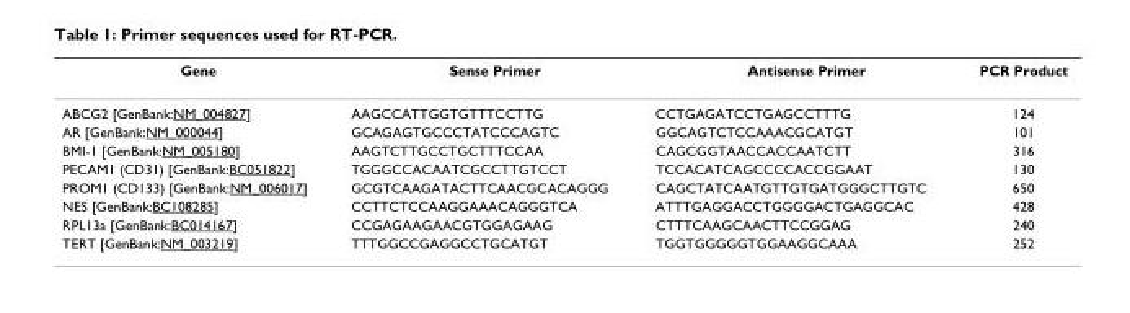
<table><thead><tr><td>Gene</td><td>Sense Primer</td><td>Antisense Primer</td><td>PCR Product</td></tr></thead><tbody><tr><td>ABCG2 [GenBank:NM_004827]</td><td>AAGCCATTGGTGTTTCCTTG</td><td>CCTGAGATCCTGAGCCTTTG</td><td>124</td></tr><tr><td>AR [GenBank:NM_000044]</td><td>GCAGAGTGCCCTATCCCAGTC</td><td>GGCAGTCTCCAAACGCATGT</td><td>101</td></tr><tr><td>BMI-1 [GenBank:NM_005180]</td><td>AAGTCTTGCCTGCTTTCCAA</td><td>CAGCGGTAACCACCAATCTT</td><td>316</td></tr><tr><td>PECAM1 (CD31) [GenBank:BC051822]</td><td>TGGGCCACAATCGCCTTGTCCT</td><td>TCCACATCAGCCCCACCGGAAT</td><td>130</td></tr><tr><td>PROM1 (CD133) [GenBank:NM_006017]</td><td>GCGTCAAGATACTTCAACGCACAGGG</td><td>CAGCTATCAATGTTGTGATGGGCTTGTC</td><td>650</td></tr><tr><td>NES [GenBank:BC108285]</td><td>CCTTCTCCAAGGAAACAGGGTCA</td><td>ATTTGAGGACCTGGGGACTGAGGCAC</td><td>428</td></tr><tr><td>RPL13a [GenBank:BC014167]</td><td>CCGAGAAGAACGTGGAGAAG</td><td>CTTTCAAGCAACTTCCGGAG</td><td>240</td></tr><tr><td>TERT [GenBank:NM_003219]</td><td>TTTGGCCGAGGCCTGCATGT</td><td>TGGTGGGGGTGGAAGGCAAA</td><td>252</td></tr></tbody></table>